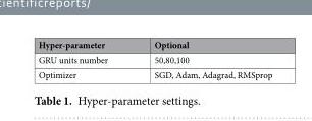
<table><thead><tr><td>Hyper-parameter</td><td>Optional</td></tr></thead><tbody><tr><td>GRU units number</td><td>50,80,100</td></tr><tr><td>Optimizer</td><td>SGD, Adam, Adagrad, RMSprop</td></tr></tbody></table>